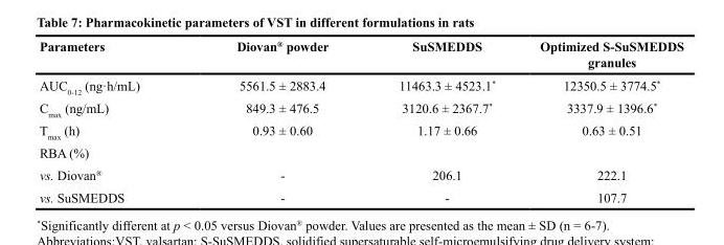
<table><thead><tr><td>Parameters</td><td>Diovan<sup>®</sup> powder</td><td>SuSMEDDS</td><td>Optimized S-SuSMEDDS granules</td></tr></thead><tbody><tr><td>AUC<sub>0-12</sub> (ng·h/mL)</td><td>5561.5 ± 2883.4</td><td>11463.3 ± 4523.1*</td><td>12350.5 ± 3774.5*</td></tr><tr><td>C<sub>max</sub> (ng/mL)</td><td>849.3 ± 476.5</td><td>3120.6 ± 2367.7*</td><td>3337.9 ± 1396.6*</td></tr><tr><td>T<sub>max</sub> (h)</td><td>0.93 ± 0.60</td><td>1.17 ± 0.66</td><td>0.63 ± 0.51</td></tr><tr><td colspan="4">RBA (%)</td></tr><tr><td>vs. Diovan<sup>®</sup></td><td>-</td><td>206.1</td><td>222.1</td></tr><tr><td>vs. SuSMEDDS</td><td>-</td><td>-</td><td>107.7</td></tr></tbody></table>